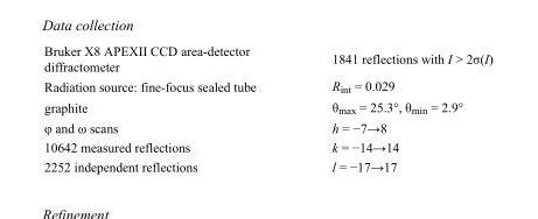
<table><tbody><tr><td>Bruker X8 APEXII CCD area-detector diffractometer</td><td>1841 reflections with I &gt; 2σ(I)</td></tr><tr><td>Radiation source: fine-focus sealed tube</td><td>R<sub>int</sub> = 0.029</td></tr><tr><td>graphite</td><td>θ<sub>max</sub> = 25.3°, θ<sub>min</sub> = 2.9°</td></tr><tr><td>φ and ω scans</td><td>h = −7→8</td></tr><tr><td>10642 measured reflections</td><td>k = −14→14</td></tr><tr><td>2252 independent reflections</td><td>l = −17→17</td></tr></tbody></table>